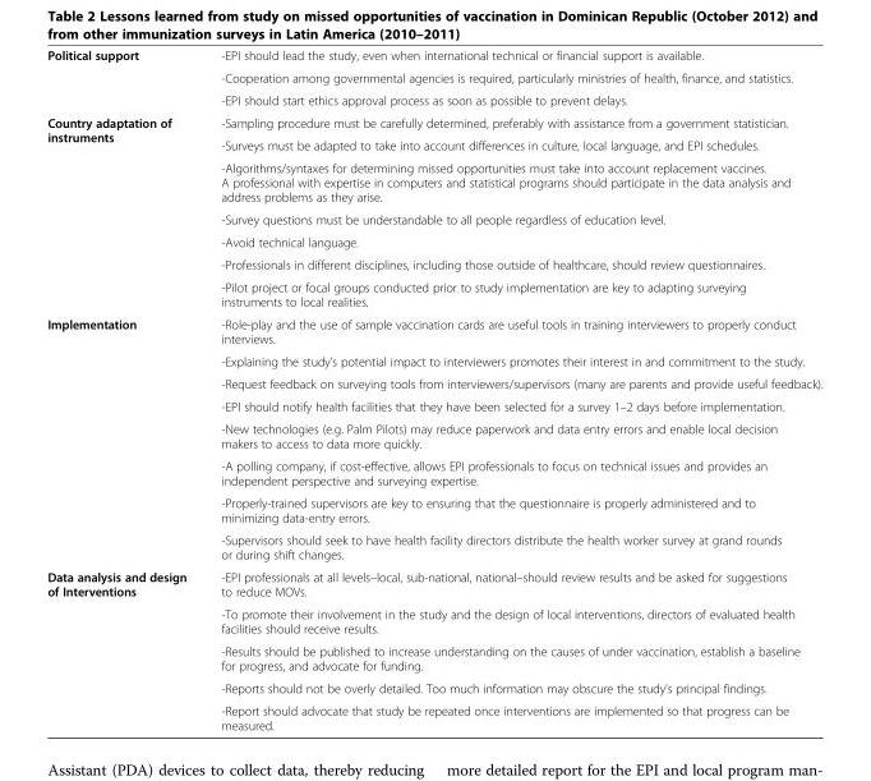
<table><tbody><tr><td rowspan="3">Political support</td><td>-EPI should lead the study, even when international technical or financial support is available.</td></tr><tr><td>-Cooperation among governmental agencies is required, particularly ministries of health, finance, and statistics.</td></tr><tr><td>-EPI should start ethics approval process as soon as possible to prevent delays.</td></tr><tr><td rowspan="7">Country adaptation of instruments</td><td>-Sampling procedure must be carefully determined, preferably with assistance from a government statistician.</td></tr><tr><td>-Surveys must be adapted to take into account differences in culture, local language, and EPI schedules.</td></tr><tr><td>-Algorithms/syntaxes for determining missed opportunities must take into account replacement vaccines. A professional with expertise in computers and statistical programs should participate in the data analysis and address problems as they arise.</td></tr><tr><td>-Survey questions must be understandable to all people regardless of education level.</td></tr><tr><td>-Avoid technical language.</td></tr><tr><td>-Professionals in different disciplines, including those outside of healthcare, should review questionnaires.</td></tr><tr><td>-Pilot project or focal groups conducted prior to study implementation are key to adapting surveying instruments to local realities.</td></tr><tr><td rowspan="8">Implementation</td><td>-Role-play and the use of sample vaccination cards are useful tools in training interviewers to properly conduct interviews.</td></tr><tr><td>-Explaining the study’s potential impact to interviewers promotes their interest in and commitment to the study.</td></tr><tr><td>-Request feedback on surveying tools from interviewers/supervisors (many are parents and provide useful feedback).</td></tr><tr><td>-EPI should notify health facilities that they have been selected for a survey 1–2 days before implementation.</td></tr><tr><td>-New technologies (e.g. Palm Pilots) may reduce paperwork and data entry errors and enable local decision makers to access to data more quickly.</td></tr><tr><td>-A polling company, if cost-effective, allows EPI professionals to focus on technical issues and provides an independent perspective and surveying expertise.</td></tr><tr><td>-Properly-trained supervisors are key to ensuring that the questionnaire is properly administered and to minimizing data-entry errors.</td></tr><tr><td>-Supervisors should seek to have health facility directors distribute the health worker survey at grand rounds or during shift changes.</td></tr><tr><td rowspan="5">Data analysis and design of Interventions</td><td>-EPI professionals at all levels–local, sub-national, national–should review results and be asked for suggestions to reduce MOVs.</td></tr><tr><td>-To promote their involvement in the study and the design of local interventions, directors of evaluated health facilities should receive results.</td></tr><tr><td>-Results should be published to increase understanding on the causes of under vaccination, establish a baseline for progress, and advocate for funding.</td></tr><tr><td>-Reports should not be overly detailed. Too much information may obscure the study’s principal findings.</td></tr><tr><td>-Report should advocate that study be repeated once interventions are implemented so that progress can be measured.</td></tr></tbody></table>